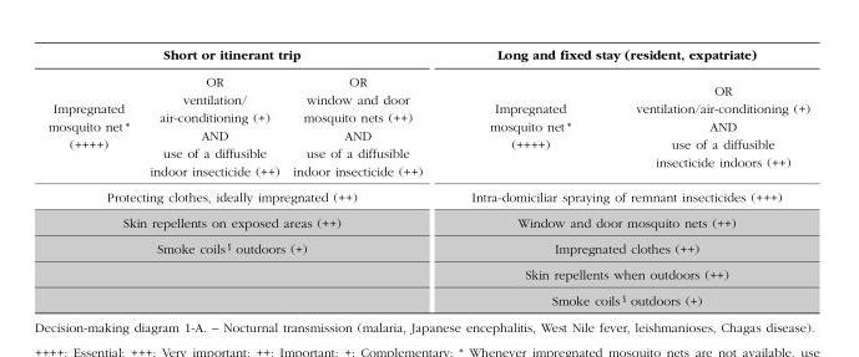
<table><thead><tr><td colspan="3">Short or itinerant trip</td><td colspan="2">Long and fixed stay (resident, expatriate)</td></tr><tr><td>Impregnated mosquito net * (++++)</td><td>OR ventilation/ air-conditioning (+) AND use of a diffusible indoor insecticide (++)</td><td>OR window and door mosquito nets (++) AND use of a diffusible indoor insecticide (++)</td><td>Impregnated mosquito net * (++++)</td><td>OR ventilation/air-conditioning (+) AND use of a diffusible insecticide indoors (++)</td></tr></thead><tbody><tr><td colspan="3">Protecting clothes, ideally impregnated (++)</td><td colspan="2">Intra-domiciliar spraying of remnant insecticides (+++)</td></tr><tr><td colspan="3">Skin repellents on exposed areas (++)</td><td colspan="2">Window and door mosquito nets (++)</td></tr><tr><td colspan="3">Smoke coils § outdoors (+)</td><td colspan="2">Impregnated clothes (++)</td></tr><tr><td></td><td></td><td></td><td colspan="2">Skin repellents when outdoors (++)</td></tr><tr><td></td><td></td><td></td><td colspan="2">Smoke coils § outdoors (+)</td></tr></tbody></table>